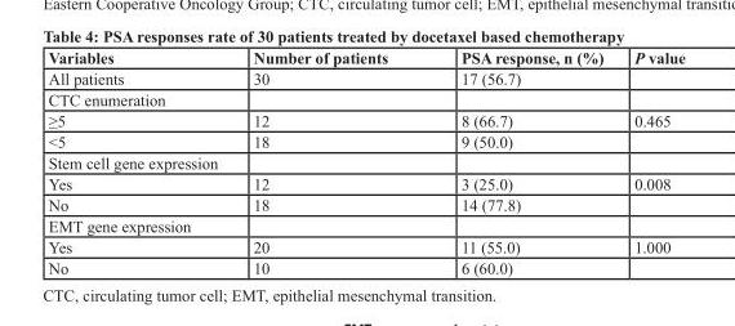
<table><thead><tr><td>Variables</td><td>Number of patients</td><td>PSA response, n (%)</td><td>P value</td></tr></thead><tbody><tr><td>All patients</td><td>30</td><td>17 (56.7)</td><td></td></tr><tr><td colspan="4">CTC enumeration</td></tr><tr><td>≥5</td><td>12</td><td>8 (66.7)</td><td>0.465</td></tr><tr><td>&lt;5</td><td>18</td><td>9 (50.0)</td><td></td></tr><tr><td colspan="4">Stem cell gene expression</td></tr><tr><td>Yes</td><td>12</td><td>3 (25.0)</td><td>0.008</td></tr><tr><td>No</td><td>18</td><td>14 (77.8)</td><td></td></tr><tr><td colspan="4">EMT gene expression</td></tr><tr><td>Yes</td><td>20</td><td>11 (55.0)</td><td>1.000</td></tr><tr><td>No</td><td>10</td><td>6 (60.0)</td><td></td></tr></tbody></table>